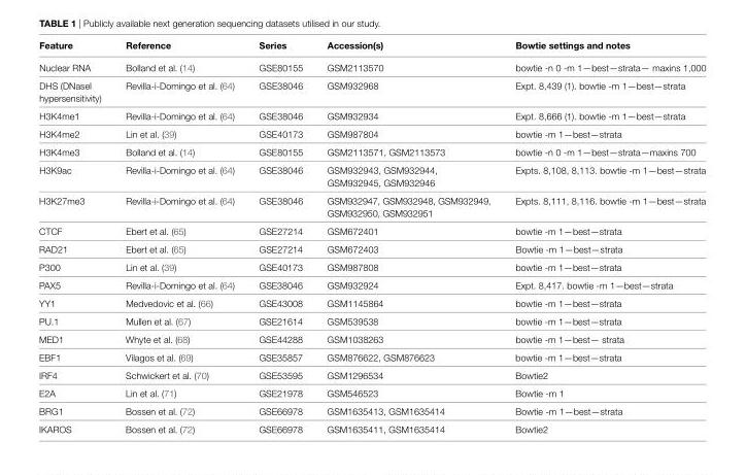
<table><thead><tr><td>Feature</td><td>reference</td><td>series</td><td>accession(s)</td><td>Bowtie settings and notes</td></tr></thead><tbody><tr><td>Nuclear RNA</td><td>Bolland et al. (14)</td><td>GSE80155</td><td>GSM2113570</td><td>bowtie -n 0 -m 1—best—strata— maxins 1,000</td></tr><tr><td>DHS (DNaseI hypersensitivity)</td><td>Revilla-i-Domingo et al. (64)</td><td>GSE38046</td><td>GSM932968</td><td>Expt. 8,439 (1). bowtie -m 1—best—strata</td></tr><tr><td>H3K4me1</td><td>Revilla-i-Domingo et al. (64)</td><td>GSE38046</td><td>GSM932934</td><td>Expt. 8,666 (1). bowtie -m 1—best—strata</td></tr><tr><td>H3K4me2</td><td>Lin et al. (39)</td><td>GSE40173</td><td>GSM987804</td><td>bowtie -m 1—best—strata</td></tr><tr><td>H3K4me3</td><td>Bolland et al. (14)</td><td>GSE80155</td><td>GSM2113571, GSM2113573</td><td>bowtie -n 0 -m 1—best—strata—maxins 700</td></tr><tr><td>H3K9ac</td><td>Revilla-i-Domingo et al. (64)</td><td>GSE38046</td><td>GSM932943, GSM932944, GSM932945, GSM932946</td><td>Expts. 8,108, 8,113. bowtie -m 1—best—strata</td></tr><tr><td>H3K27me3</td><td>Revilla-i-Domingo et al. (64)</td><td>GSE38046</td><td>GSM932947, GSM932948, GSM932949, GSM932950, GSM932951</td><td>Expts. 8,111, 8,116. bowtie -m 1—best—strata</td></tr><tr><td>CTCF</td><td>Ebert et al. (65)</td><td>GSE27214</td><td>GSM672401</td><td>bowtie -m 1—best—strata</td></tr><tr><td>RAD21</td><td>Ebert et al. (65)</td><td>GSE27214</td><td>GSM672403</td><td>Bowtie -m 1—best—strata</td></tr><tr><td>P300</td><td>Lin et al. (39)</td><td>GSE40173</td><td>GSM987808</td><td>bowtie -m 1—best—strata</td></tr><tr><td>PAX5</td><td>Revilla-i-Domingo et al. (64)</td><td>GSE38046</td><td>GSM932924</td><td>Expt. 8,417. bowtie -m 1—best—strata</td></tr><tr><td>YY1</td><td>Medvedovic et al. (66)</td><td>GSE43008</td><td>GSM1145864</td><td>bowtie -m 1—best—strata</td></tr><tr><td>PU.1</td><td>Mullen et al. (67)</td><td>GSE21614</td><td>GSM539538</td><td>bowtie -m 1—best—strata</td></tr><tr><td>MED1</td><td>Whyte et al. (68)</td><td>GSE44288</td><td>GSM1038263</td><td>bowtie -m 1—best— strata</td></tr><tr><td>EBF1</td><td>Vilagos et al. (69)</td><td>GSE35857</td><td>GSM876622, GSM876623</td><td>bowtie -m 1—best—strata</td></tr><tr><td>IRF4</td><td>Schwickert et al. (70)</td><td>GSE53595</td><td>GSM1296534</td><td>Bowtie2</td></tr><tr><td>E2A</td><td>Lin et al. (71)</td><td>GSE21978</td><td>GSM546523</td><td>Bowtie -m 1</td></tr><tr><td>BRG1</td><td>Bossen et al. (72)</td><td>GSE66978</td><td>GSM1635413, GSM1635414</td><td>Bowtie -m 1—best—strata</td></tr><tr><td>IKAROS</td><td>Bossen et al. (72)</td><td>GSE66978</td><td>GSM1635411, GSM1635414</td><td>Bowtie2</td></tr></tbody></table>